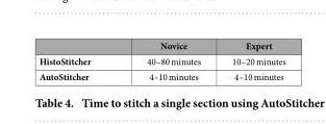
<table><thead><tr><td></td><td>Novice</td><td>Expert</td></tr></thead><tbody><tr><td>HistoStitcher</td><td>40–80 minutes</td><td>10–20 minutes</td></tr><tr><td>AutoStitcher</td><td>4–10 minutes</td><td>4–10 minutes</td></tr></tbody></table>